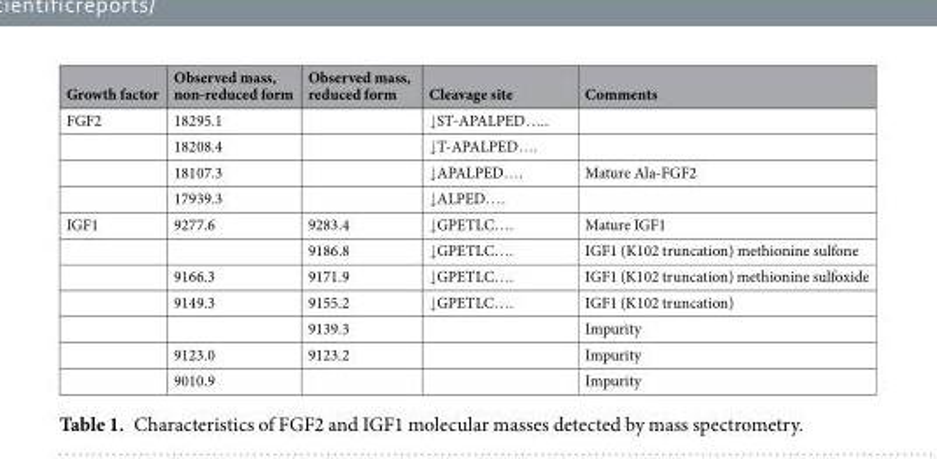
<table><thead><tr><td>Growth factor</td><td>Observed mass, non-reduced form</td><td>Observed mass, reduced form</td><td>Cleavage site</td><td>Comments</td></tr></thead><tbody><tr><td rowspan="4">FGF2</td><td>18295.1</td><td></td><td>↓ST-APALPED…..</td><td></td></tr><tr><td>18208.4</td><td></td><td>↓T-APALPED….</td><td></td></tr><tr><td>18107.3</td><td></td><td>↓APALPED….</td><td>Mature Ala-FGF2</td></tr><tr><td>17939.3</td><td></td><td>↓ALPED….</td><td></td></tr><tr><td rowspan="7">IGF1</td><td>9277.6</td><td>9283.4</td><td>↓GPETLC….</td><td>Mature IGF1</td></tr><tr><td></td><td>9186.8</td><td>↓GPETLC….</td><td>IGF1 (K102 truncation) methionine sulfone</td></tr><tr><td>9166.3</td><td>9171.9</td><td>↓GPETLC….</td><td>IGF1 (K102 truncation) methionine sulfoxide</td></tr><tr><td>9149.3</td><td>9155.2</td><td>↓GPETLC….</td><td>IGF1 (K102 truncation)</td></tr><tr><td></td><td>9139.3</td><td></td><td>Impurity</td></tr><tr><td>9123.0</td><td>9123.2</td><td></td><td>Impurity</td></tr><tr><td>9010.9</td><td></td><td></td><td>Impurity</td></tr></tbody></table>